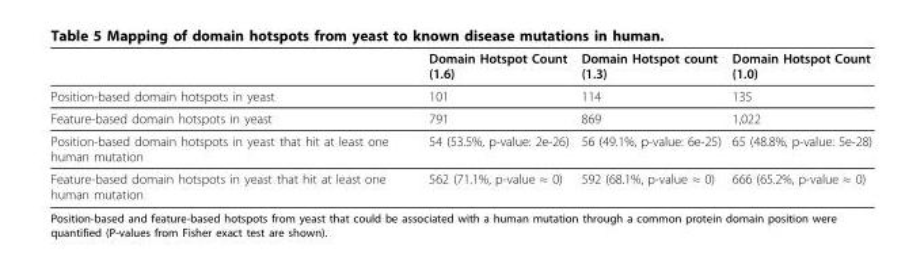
<table><thead><tr><td></td><td>Domain Hotspot Count (1.6)</td><td>Domain Hotspot count (1.3)</td><td>Domain Hotspot Count (1.0)</td></tr></thead><tbody><tr><td>Position-based domain hotspots in yeast</td><td>101</td><td>114</td><td>135</td></tr><tr><td>Feature-based domain hotspots in yeast</td><td>791</td><td>869</td><td>1,022</td></tr><tr><td>Position-based domain hotspots in yeast that hit at least one human mutation</td><td>54 (53.5%, p-value: 2e-26)</td><td>56 (49.1%, p-value: 6e-25)</td><td>65 (48.8%, p-value: 5e-28)</td></tr><tr><td>Feature-based domain hotspots in yeast that hit at least one human mutation</td><td>562 (71.1%, p-value ≈ 0)</td><td>592 (68.1%, p-value ≈ 0)</td><td>666 (65.2%, p-value ≈ 0)</td></tr></tbody></table>